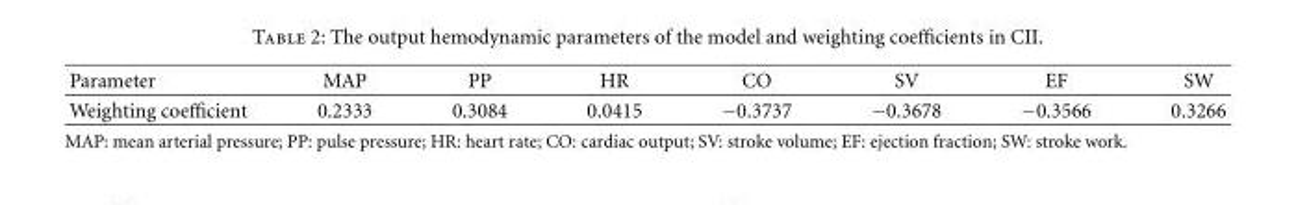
<table><thead><tr><td>Parameter</td><td>MAP</td><td>PP</td><td>HR</td><td>CO</td><td>SV</td><td>EF</td><td>SW</td></tr></thead><tbody><tr><td>Weighting coefficient</td><td>0.2333</td><td>0.3084</td><td>0.0415</td><td>−0.3737</td><td>−0.3678</td><td>−0.3566</td><td>0.3266</td></tr></tbody></table>